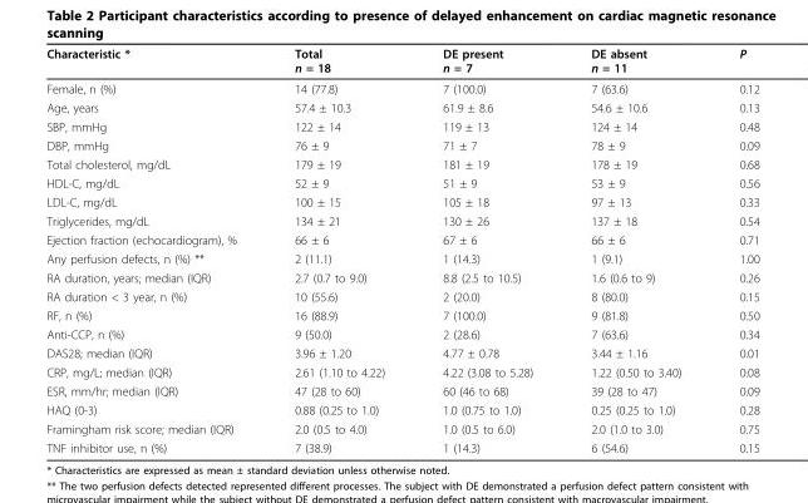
<table><thead><tr><td>Characteristic *</td><td>Total n = 18</td><td>DE present n = 7</td><td>DE absent n = 11</td><td>P</td></tr></thead><tbody><tr><td>Female, n (%)</td><td>14 (77.8)</td><td>7 (100.0)</td><td>7 (63.6)</td><td>0.12</td></tr><tr><td>Age, years</td><td>57.4 ± 10.3</td><td>61.9 ± 8.6</td><td>54.6 ± 10.6</td><td>0.13</td></tr><tr><td>SBP, mmHg</td><td>122 ± 14</td><td>119 ± 13</td><td>124 ± 14</td><td>0.48</td></tr><tr><td>DBP, mmHg</td><td>76 ± 9</td><td>71 ± 7</td><td>78 ± 9</td><td>0.09</td></tr><tr><td>Total cholesterol, mg/dL</td><td>179 ± 19</td><td>181 ± 19</td><td>178 ± 19</td><td>0.68</td></tr><tr><td>HDL-C, mg/dL</td><td>52 ± 9</td><td>51 ± 9</td><td>53 ± 9</td><td>0.56</td></tr><tr><td>LDL-C, mg/dL</td><td>100 ± 15</td><td>105 ± 18</td><td>97 ± 13</td><td>0.33</td></tr><tr><td>Triglycerides, mg/dL</td><td>134 ± 21</td><td>130 ± 26</td><td>137 ± 18</td><td>0.54</td></tr><tr><td>Ejection fraction (echocardiogram), %</td><td>66 ± 6</td><td>67 ± 6</td><td>66 ± 6</td><td>0.71</td></tr><tr><td>Any perfusion defects, n (%) **</td><td>2 (11.1)</td><td>1 (14.3)</td><td>1 (9.1)</td><td>1.00</td></tr><tr><td>RA duration, years; median (IQR)</td><td>2.7 (0.7 to 9.0)</td><td>8.8 (2.5 to 10.5)</td><td>1.6 (0.6 to 9)</td><td>0.26</td></tr><tr><td>RA duration &lt; 3 year, n (%)</td><td>10 (55.6)</td><td>2 (20.0)</td><td>8 (80.0)</td><td>0.15</td></tr><tr><td>RF, n (%)</td><td>16 (88.9)</td><td>7 (100.0)</td><td>9 (81.8)</td><td>0.50</td></tr><tr><td>Anti-CCP, n (%)</td><td>9 (50.0)</td><td>2 (28.6)</td><td>7 (63.6)</td><td>0.34</td></tr><tr><td>DAS28; median (IQR)</td><td>3.96 ± 1.20</td><td>4.77 ± 0.78</td><td>3.44 ± 1.16</td><td>0.01</td></tr><tr><td>CRP, mg/L; median (IQR)</td><td>2.61 (1.10 to 4.22)</td><td>4.22 (3.08 to 5.28)</td><td>1.22 (0.50 to 3.40)</td><td>0.08</td></tr><tr><td>ESR, mm/hr; median (IQR)</td><td>47 (28 to 60)</td><td>60 (46 to 68)</td><td>39 (28 to 47)</td><td>0.09</td></tr><tr><td>HAQ (0-3)</td><td>0.88 (0.25 to 1.0)</td><td>1.0 (0.75 to 1.0)</td><td>0.25 (0.25 to 1.0)</td><td>0.28</td></tr><tr><td>Framingham risk score; median (IQR)</td><td>2.0 (0.5 to 4.0)</td><td>1.0 (0.5 to 6.0)</td><td>2.0 (1.0 to 3.0)</td><td>0.75</td></tr><tr><td>TNF inhibitor use, n (%)</td><td>7 (38.9)</td><td>1 (14.3)</td><td>6 (54.6)</td><td>0.15</td></tr></tbody></table>